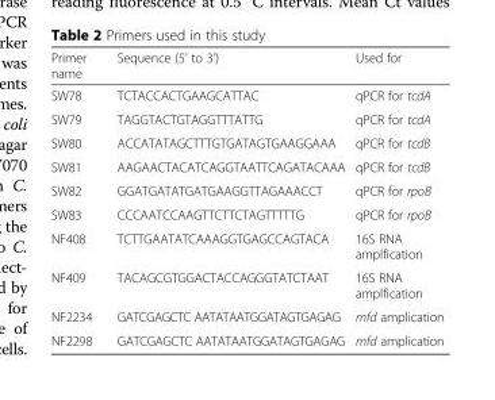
<table><thead><tr><td>Primer name</td><td>Sequence (5’ to 3’)</td><td>Used for</td></tr></thead><tbody><tr><td>SW78</td><td>TCTACCACTGAAGCATTAC</td><td>qPCR for tcdA</td></tr><tr><td>SW79</td><td>TAGGTACTGTAGGTTTATTG</td><td>qPCR for tcdA</td></tr><tr><td>SW80</td><td>ACCATATAGCTTTGTGATAGTGAAGGAAA</td><td>qPCR for tcdB</td></tr><tr><td>SW81</td><td>AAGAACTACATCAGGTAATTCAGATACAAA</td><td>qPCR for tcdB</td></tr><tr><td>SW82</td><td>GGATGATATGATGAAGGTTAGAAACCT</td><td>qPCR for rpoB</td></tr><tr><td>SW83</td><td>CCCAATCCAAGTTCTTCTAGTTTTTG</td><td>qPCR for rpoB</td></tr><tr><td>NF408</td><td>TCTTGAATATCAAAGGTGAGCCAGTACA</td><td>16S RNA amplfication</td></tr><tr><td>NF409</td><td>TACAGCGTGGACTACCAGGGTATCTAAT</td><td>16S RNA amplfication</td></tr><tr><td>NF2234</td><td>GATCGAGCTC AATATAATGGATAGTGAGAG</td><td>mfd amplication</td></tr><tr><td>NF2298</td><td>GATCGAGCTC AATATAATGGATAGTGAGAG</td><td>mfd amplication</td></tr></tbody></table>